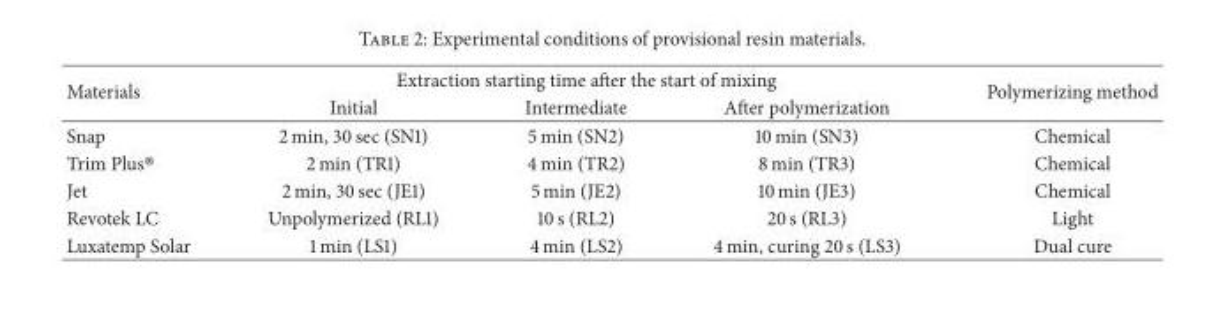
<table><thead><tr><td rowspan="2">Materials</td><td colspan="3">Extraction starting time after the start of mixing</td><td rowspan="2">Polymerizing method</td></tr><tr><td>Initial</td><td>Intermediate</td><td>After polymerization</td></tr></thead><tbody><tr><td>Snap</td><td>2 min, 30 sec (SN1)</td><td>5 min (SN2)</td><td>10 min (SN3)</td><td>Chemical</td></tr><tr><td>Trim Plus®</td><td>2 min (TR1)</td><td>4 min (TR2)</td><td>8 min (TR3)</td><td>Chemical</td></tr><tr><td>Jet</td><td>2 min, 30 sec (JE1)</td><td>5 min (JE2)</td><td>10 min (JE3)</td><td>Chemical</td></tr><tr><td>Revotek LC</td><td>Unpolymerized (RL1)</td><td>10 s (RL2)</td><td>20 s (RL3)</td><td>Light</td></tr><tr><td>Luxatemp Solar</td><td>1 min (LS1)</td><td>4 min (LS2)</td><td>4 min, curing 20 s (LS3)</td><td>Dual cure</td></tr></tbody></table>